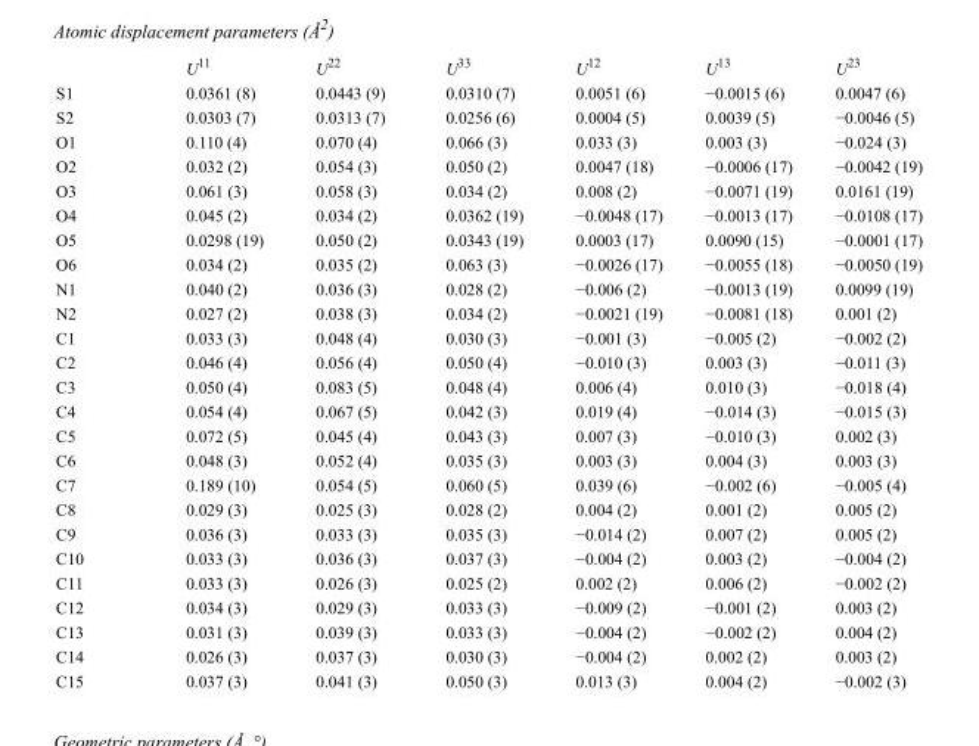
<table><thead><tr><td></td><td>U<sup>11</sup></td><td>U<sup>22</sup></td><td>U<sup>33</sup></td><td>U<sup>12</sup></td><td>U<sup>13</sup></td><td>U<sup>23</sup></td></tr></thead><tbody><tr><td>S1</td><td>0.0361 (8)</td><td>0.0443 (9)</td><td>0.0310 (7)</td><td>0.0051 (6)</td><td>−0.0015 (6)</td><td>0.0047 (6)</td></tr><tr><td>S2</td><td>0.0303 (7)</td><td>0.0313 (7)</td><td>0.0256 (6)</td><td>0.0004 (5)</td><td>0.0039 (5)</td><td>−0.0046 (5)</td></tr><tr><td>O1</td><td>0.110 (4)</td><td>0.070 (4)</td><td>0.066 (3)</td><td>0.033 (3)</td><td>0.003 (3)</td><td>−0.024 (3)</td></tr><tr><td>O2</td><td>0.032 (2)</td><td>0.054 (3)</td><td>0.050 (2)</td><td>0.0047 (18)</td><td>−0.0006 (17)</td><td>−0.0042 (19)</td></tr><tr><td>O3</td><td>0.061 (3)</td><td>0.058 (3)</td><td>0.034 (2)</td><td>0.008 (2)</td><td>−0.0071 (19)</td><td>0.0161 (19)</td></tr><tr><td>O4</td><td>0.045 (2)</td><td>0.034 (2)</td><td>0.0362 (19)</td><td>−0.0048 (17)</td><td>−0.0013 (17)</td><td>−0.0108 (17)</td></tr><tr><td>O5</td><td>0.0298 (19)</td><td>0.050 (2)</td><td>0.0343 (19)</td><td>0.0003 (17)</td><td>0.0090 (15)</td><td>−0.0001 (17)</td></tr><tr><td>O6</td><td>0.034 (2)</td><td>0.035 (2)</td><td>0.063 (3)</td><td>−0.0026 (17)</td><td>−0.0055 (18)</td><td>−0.0050 (19)</td></tr><tr><td>N1</td><td>0.040 (2)</td><td>0.036 (3)</td><td>0.028 (2)</td><td>−0.006 (2)</td><td>−0.0013 (19)</td><td>0.0099 (19)</td></tr><tr><td>N2</td><td>0.027 (2)</td><td>0.038 (3)</td><td>0.034 (2)</td><td>−0.0021 (19)</td><td>−0.0081 (18)</td><td>0.001 (2)</td></tr><tr><td>C1</td><td>0.033 (3)</td><td>0.048 (4)</td><td>0.030 (3)</td><td>−0.001 (3)</td><td>−0.005 (2)</td><td>−0.002 (2)</td></tr><tr><td>C2</td><td>0.046 (4)</td><td>0.056 (4)</td><td>0.050 (4)</td><td>−0.010 (3)</td><td>0.003 (3)</td><td>−0.011 (3)</td></tr><tr><td>C3</td><td>0.050 (4)</td><td>0.083 (5)</td><td>0.048 (4)</td><td>0.006 (4)</td><td>0.010 (3)</td><td>−0.018 (4)</td></tr><tr><td>C4</td><td>0.054 (4)</td><td>0.067 (5)</td><td>0.042 (3)</td><td>0.019 (4)</td><td>−0.014 (3)</td><td>−0.015 (3)</td></tr><tr><td>C5</td><td>0.072 (5)</td><td>0.045 (4)</td><td>0.043 (3)</td><td>0.007 (3)</td><td>−0.010 (3)</td><td>0.002 (3)</td></tr><tr><td>C6</td><td>0.048 (3)</td><td>0.052 (4)</td><td>0.035 (3)</td><td>0.003 (3)</td><td>0.004 (3)</td><td>0.003 (3)</td></tr><tr><td>C7</td><td>0.189 (10)</td><td>0.054 (5)</td><td>0.060 (5)</td><td>0.039 (6)</td><td>−0.002 (6)</td><td>−0.005 (4)</td></tr><tr><td>C8</td><td>0.029 (3)</td><td>0.025 (3)</td><td>0.028 (2)</td><td>0.004 (2)</td><td>0.001 (2)</td><td>0.005 (2)</td></tr><tr><td>C9</td><td>0.036 (3)</td><td>0.033 (3)</td><td>0.035 (3)</td><td>−0.014 (2)</td><td>0.007 (2)</td><td>0.005 (2)</td></tr><tr><td>C10</td><td>0.033 (3)</td><td>0.036 (3)</td><td>0.037 (3)</td><td>−0.004 (2)</td><td>0.003 (2)</td><td>−0.004 (2)</td></tr><tr><td>C11</td><td>0.033 (3)</td><td>0.026 (3)</td><td>0.025 (2)</td><td>0.002 (2)</td><td>0.006 (2)</td><td>−0.002 (2)</td></tr><tr><td>C12</td><td>0.034 (3)</td><td>0.029 (3)</td><td>0.033 (3)</td><td>−0.009 (2)</td><td>−0.001 (2)</td><td>0.003 (2)</td></tr><tr><td>C13</td><td>0.031 (3)</td><td>0.039 (3)</td><td>0.033 (3)</td><td>−0.004 (2)</td><td>−0.002 (2)</td><td>0.004 (2)</td></tr><tr><td>C14</td><td>0.026 (3)</td><td>0.037 (3)</td><td>0.030 (3)</td><td>−0.004 (2)</td><td>0.002 (2)</td><td>0.003 (2)</td></tr><tr><td>C15</td><td>0.037 (3)</td><td>0.041 (3)</td><td>0.050 (3)</td><td>0.013 (3)</td><td>0.004 (2)</td><td>−0.002 (3)</td></tr></tbody></table>